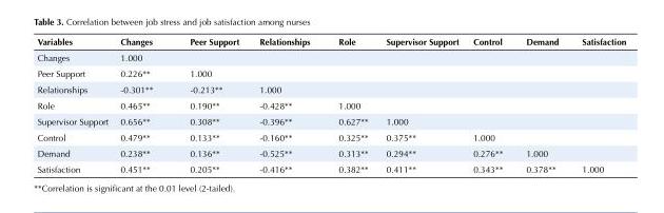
<table><tbody><tr><td>Variables</td><td>Changes</td><td>Peer Support</td><td>Relationships</td><td>Role</td><td>Supervisor Support</td><td>Control</td><td>Demand</td><td>Satisfaction</td></tr><tr><td>Changes</td><td>1.000</td><td></td><td></td><td></td><td></td><td></td><td></td><td></td></tr><tr><td>Peer Support</td><td>0.226**</td><td>1.000</td><td></td><td></td><td></td><td></td><td></td><td></td></tr><tr><td>Relationships</td><td>-0.301**</td><td>-0.213**</td><td>1.000</td><td></td><td></td><td></td><td></td><td></td></tr><tr><td>Role</td><td>0.465**</td><td>0.190**</td><td>-0.428**</td><td>1.000</td><td></td><td></td><td></td><td></td></tr><tr><td>Supervisor Support</td><td>0.656**</td><td>0.308**</td><td>-0.396**</td><td>0.627**</td><td>1.000</td><td></td><td></td><td></td></tr><tr><td>Control</td><td>0.479**</td><td>0.133**</td><td>-0.160**</td><td>0.325**</td><td>0.375**</td><td>1.000</td><td></td><td></td></tr><tr><td>Demand</td><td>0.238**</td><td>0.136**</td><td>-0.525**</td><td>0.313**</td><td>0.294**</td><td>0.276**</td><td>1.000</td><td></td></tr><tr><td>Satisfaction</td><td>0.451**</td><td>0.205**</td><td>-0.416**</td><td>0.382**</td><td>0.411**</td><td>0.343**</td><td>0.378**</td><td>1.000</td></tr></tbody></table>